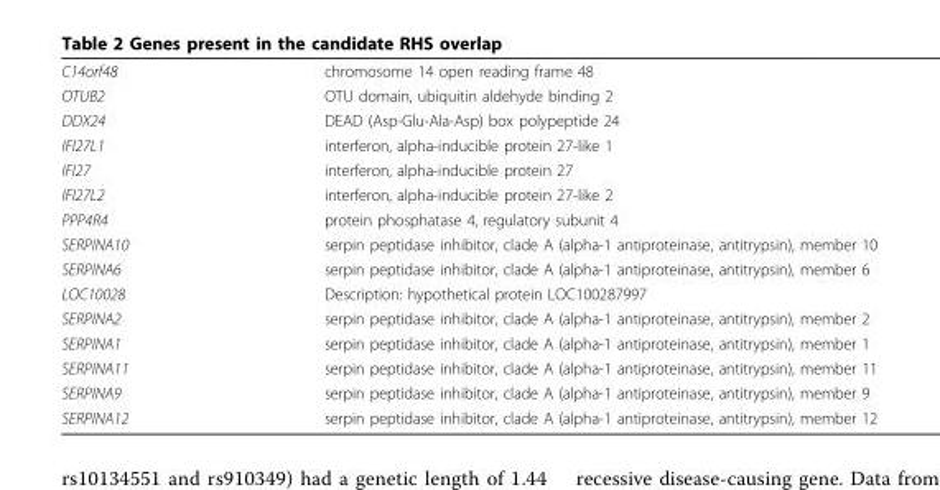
<table><tbody><tr><td>C14orf48</td><td>chromosome 14 open reading frame 48</td></tr><tr><td>OTUB2</td><td>OTU domain, ubiquitin aldehyde binding 2</td></tr><tr><td>DDX24</td><td>DEAD (Asp-Glu-Ala-Asp) box polypeptide 24</td></tr><tr><td>IFI27L1</td><td>interferon, alpha-inducible protein 27-like 1</td></tr><tr><td>IFI27</td><td>interferon, alpha-inducible protein 27</td></tr><tr><td>IFI27L2</td><td>interferon, alpha-inducible protein 27-like 2</td></tr><tr><td>PPP4R4</td><td>protein phosphatase 4, regulatory subunit 4</td></tr><tr><td>SERPINA10</td><td>serpin peptidase inhibitor, clade A (alpha-1 antiproteinase, antitrypsin), member 10</td></tr><tr><td>SERPINA6</td><td>serpin peptidase inhibitor, clade A (alpha-1 antiproteinase, antitrypsin), member 6</td></tr><tr><td>LOC10028</td><td>Description: hypothetical protein LOC100287997</td></tr><tr><td>SERPINA2</td><td>serpin peptidase inhibitor, clade A (alpha-1 antiproteinase, antitrypsin), member 2</td></tr><tr><td>SERPINA1</td><td>serpin peptidase inhibitor, clade A (alpha-1 antiproteinase, antitrypsin), member 1</td></tr><tr><td>SERPINA11</td><td>serpin peptidase inhibitor, clade A (alpha-1 antiproteinase, antitrypsin), member 11</td></tr><tr><td>SERPINA9</td><td>serpin peptidase inhibitor, clade A (alpha-1 antiproteinase, antitrypsin), member 9</td></tr><tr><td>SERPINA12</td><td>serpin peptidase inhibitor, clade A (alpha-1 antiproteinase, antitrypsin), member 12</td></tr></tbody></table>